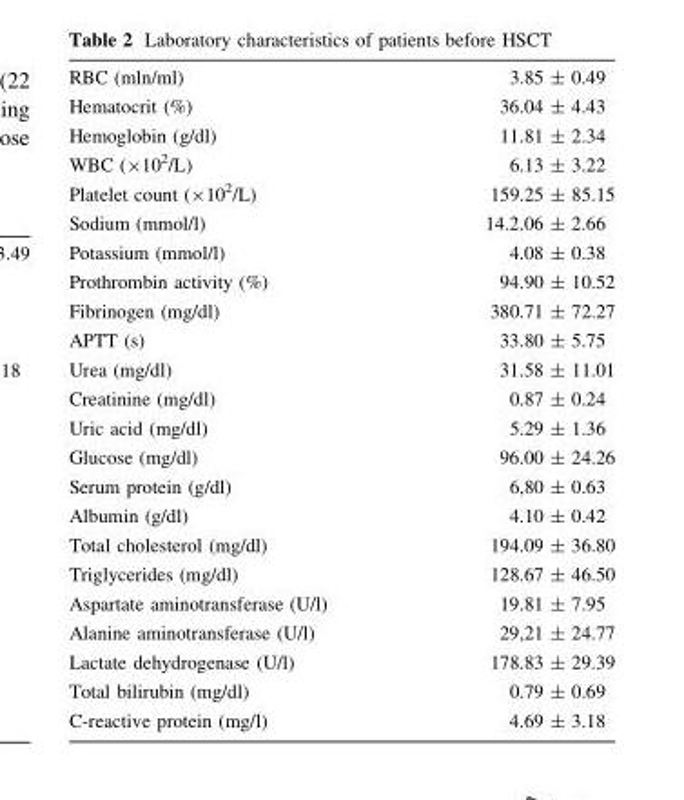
<table><tbody><tr><td>RBC (mln/ml)</td><td>3.85 ± 0.49</td></tr><tr><td>Hematocrit (%)</td><td>36.04 ± 4.43</td></tr><tr><td>Hemoglobin (g/dl)</td><td>11.81 ± 2.34</td></tr><tr><td>WBC (×10<sup>2</sup>/L)</td><td>6.13 ± 3.22</td></tr><tr><td>Platelet count (×10<sup>2</sup>/L)</td><td>159.25 ± 85.15</td></tr><tr><td>Sodium (mmol/l)</td><td>14.2.06 ± 2.66</td></tr><tr><td>Potassium (mmol/l)</td><td>4.08 ± 0.38</td></tr><tr><td>Prothrombin activity (%)</td><td>94.90 ± 10.52</td></tr><tr><td>Fibrinogen (mg/dl)</td><td>380.71 ± 72.27</td></tr><tr><td>APTT (s)</td><td>33.80 ± 5.75</td></tr><tr><td>Urea (mg/dl)</td><td>31.58 ± 11.01</td></tr><tr><td>Creatinine (mg/dl)</td><td>0.87 ± 0.24</td></tr><tr><td>Uric acid (mg/dl)</td><td>5.29 ± 1.36</td></tr><tr><td>Glucose (mg/dl)</td><td>96.00 ± 24.26</td></tr><tr><td>Serum protein (g/dl)</td><td>6,80 ± 0.63</td></tr><tr><td>Albumin (g/dl)</td><td>4.10 ± 0.42</td></tr><tr><td>Total cholesterol (mg/dl)</td><td>194.09 ± 36.80</td></tr><tr><td>Triglycerides (mg/dl)</td><td>128.67 ± 46.50</td></tr><tr><td>Aspartate aminotransferase (U/l)</td><td>19.81 ± 7.95</td></tr><tr><td>Alanine aminotransferase (U/l)</td><td>29,21 ± 24.77</td></tr><tr><td>Lactate dehydrogenase (U/l)</td><td>178.83 ± 29.39</td></tr><tr><td>Total bilirubin (mg/dl)</td><td>0.79 ± 0.69</td></tr><tr><td>C-reactive protein (mg/l)</td><td>4.69 ± 3.18</td></tr></tbody></table>